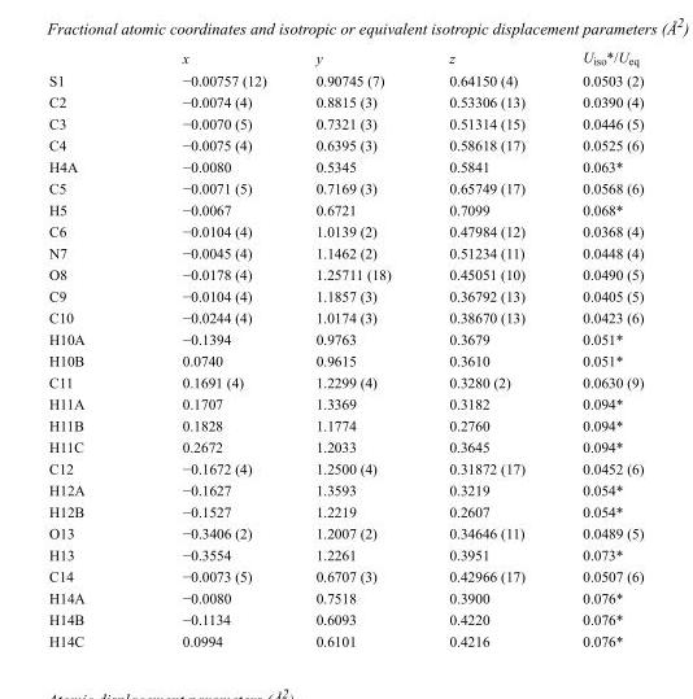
<table><thead><tr><td></td><td>x</td><td>y</td><td>z</td><td>U<sub>iso</sub>*/U<sub>eq</sub></td></tr></thead><tbody><tr><td>S1</td><td>−0.00757 (12)</td><td>0.90745 (7)</td><td>0.64150 (4)</td><td>0.0503 (2)</td></tr><tr><td>C2</td><td>−0.0074 (4)</td><td>0.8815 (3)</td><td>0.53306 (13)</td><td>0.0390 (4)</td></tr><tr><td>C3</td><td>−0.0070 (5)</td><td>0.7321 (3)</td><td>0.51314 (15)</td><td>0.0446 (5)</td></tr><tr><td>C4</td><td>−0.0075 (4)</td><td>0.6395 (3)</td><td>0.58618 (17)</td><td>0.0525 (6)</td></tr><tr><td>H4A</td><td>−0.0080</td><td>0.5345</td><td>0.5841</td><td>0.063*</td></tr><tr><td>C5</td><td>−0.0071 (5)</td><td>0.7169 (3)</td><td>0.65749 (17)</td><td>0.0568 (6)</td></tr><tr><td>H5</td><td>−0.0067</td><td>0.6721</td><td>0.7099</td><td>0.068*</td></tr><tr><td>C6</td><td>−0.0104 (4)</td><td>1.0139 (2)</td><td>0.47984 (12)</td><td>0.0368 (4)</td></tr><tr><td>N7</td><td>−0.0045 (4)</td><td>1.1462 (2)</td><td>0.51234 (11)</td><td>0.0448 (4)</td></tr><tr><td>O8</td><td>−0.0178 (4)</td><td>1.25711 (18)</td><td>0.45051 (10)</td><td>0.0490 (5)</td></tr><tr><td>C9</td><td>−0.0104 (4)</td><td>1.1857 (3)</td><td>0.36792 (13)</td><td>0.0405 (5)</td></tr><tr><td>C10</td><td>−0.0244 (4)</td><td>1.0174 (3)</td><td>0.38670 (13)</td><td>0.0423 (6)</td></tr><tr><td>H10A</td><td>−0.1394</td><td>0.9763</td><td>0.3679</td><td>0.051*</td></tr><tr><td>H10B</td><td>0.0740</td><td>0.9615</td><td>0.3610</td><td>0.051*</td></tr><tr><td>C11</td><td>0.1691 (4)</td><td>1.2299 (4)</td><td>0.3280 (2)</td><td>0.0630 (9)</td></tr><tr><td>H11A</td><td>0.1707</td><td>1.3369</td><td>0.3182</td><td>0.094*</td></tr><tr><td>H11B</td><td>0.1828</td><td>1.1774</td><td>0.2760</td><td>0.094*</td></tr><tr><td>H11C</td><td>0.2672</td><td>1.2033</td><td>0.3645</td><td>0.094*</td></tr><tr><td>C12</td><td>−0.1672 (4)</td><td>1.2500 (4)</td><td>0.31872 (17)</td><td>0.0452 (6)</td></tr><tr><td>H12A</td><td>−0.1627</td><td>1.3593</td><td>0.3219</td><td>0.054*</td></tr><tr><td>H12B</td><td>−0.1527</td><td>1.2219</td><td>0.2607</td><td>0.054*</td></tr><tr><td>O13</td><td>−0.3406 (2)</td><td>1.2007 (2)</td><td>0.34646 (11)</td><td>0.0489 (5)</td></tr><tr><td>H13</td><td>−0.3554</td><td>1.2261</td><td>0.3951</td><td>0.073*</td></tr><tr><td>C14</td><td>−0.0073 (5)</td><td>0.6707 (3)</td><td>0.42966 (17)</td><td>0.0507 (6)</td></tr><tr><td>H14A</td><td>−0.0080</td><td>0.7518</td><td>0.3900</td><td>0.076*</td></tr><tr><td>H14B</td><td>−0.1134</td><td>0.6093</td><td>0.4220</td><td>0.076*</td></tr><tr><td>H14C</td><td>0.0994</td><td>0.6101</td><td>0.4216</td><td>0.076*</td></tr></tbody></table>